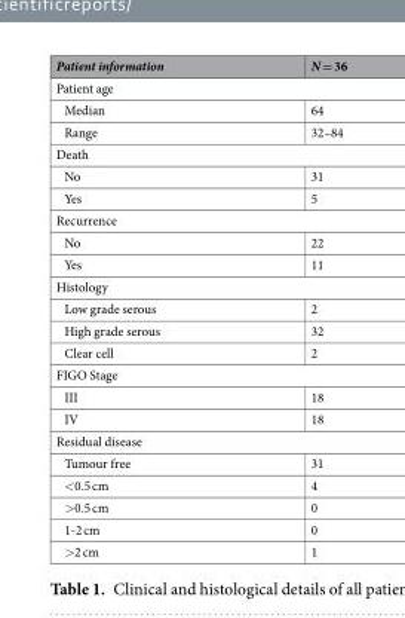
<table><thead><tr><td>Patient information</td><td>N = 36</td></tr></thead><tbody><tr><td colspan="2">Patient age</td></tr><tr><td>Median</td><td>64</td></tr><tr><td>Range</td><td>32–84</td></tr><tr><td colspan="2">Death</td></tr><tr><td>No</td><td>31</td></tr><tr><td>Yes</td><td>5</td></tr><tr><td colspan="2">Recurrence</td></tr><tr><td>No</td><td>22</td></tr><tr><td>Yes</td><td>11</td></tr><tr><td colspan="2">Histology</td></tr><tr><td>Low grade serous</td><td>2</td></tr><tr><td>High grade serous</td><td>32</td></tr><tr><td>Clear cell</td><td>2</td></tr><tr><td colspan="2">FIGO Stage</td></tr><tr><td>III</td><td>18</td></tr><tr><td>IV</td><td>18</td></tr><tr><td colspan="2">Residual disease</td></tr><tr><td>Tumour free</td><td>31</td></tr><tr><td>&lt;0.5 cm</td><td>4</td></tr><tr><td>&gt;0.5 cm</td><td>0</td></tr><tr><td>1-2 cm</td><td>0</td></tr><tr><td>&gt;2 cm</td><td>1</td></tr></tbody></table>